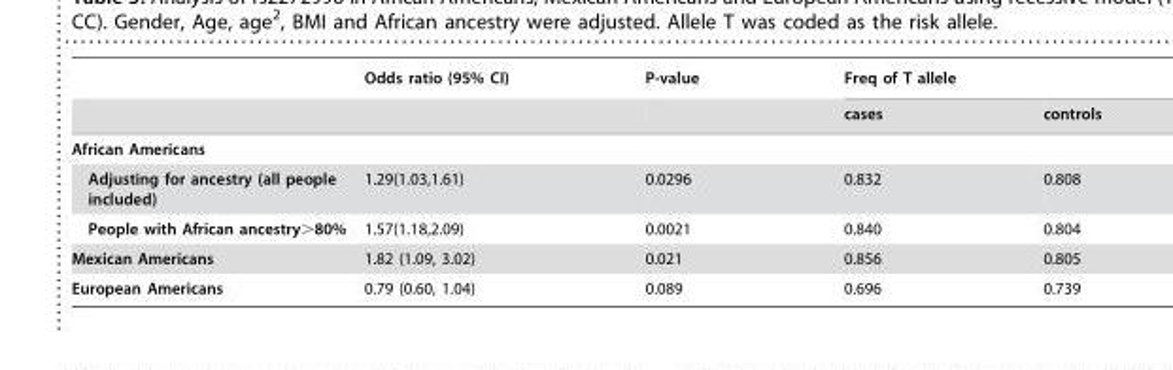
<table><thead><tr><td rowspan="2"></td><td rowspan="2">Odds ratio (95% CI)</td><td rowspan="2">P-value</td><td colspan="2">Freq of T allele</td></tr><tr><td>cases</td><td>controls</td></tr></thead><tbody><tr><td colspan="5">African Americans</td></tr><tr><td>Adjusting for ancestry (all people included)</td><td>1.29(1.03,1.61)</td><td>0.0296</td><td>0.832</td><td>0.808</td></tr><tr><td>People with African ancestry&gt;80%</td><td>1.57(1.18,2.09)</td><td>0.0021</td><td>0.840</td><td>0.804</td></tr><tr><td>Mexican Americans</td><td>1.82 (1.09, 3.02)</td><td>0.021</td><td>0.856</td><td>0.805</td></tr><tr><td>European Americans</td><td>0.79 (0.60, 1.04)</td><td>0.089</td><td>0.696</td><td>0.739</td></tr></tbody></table>